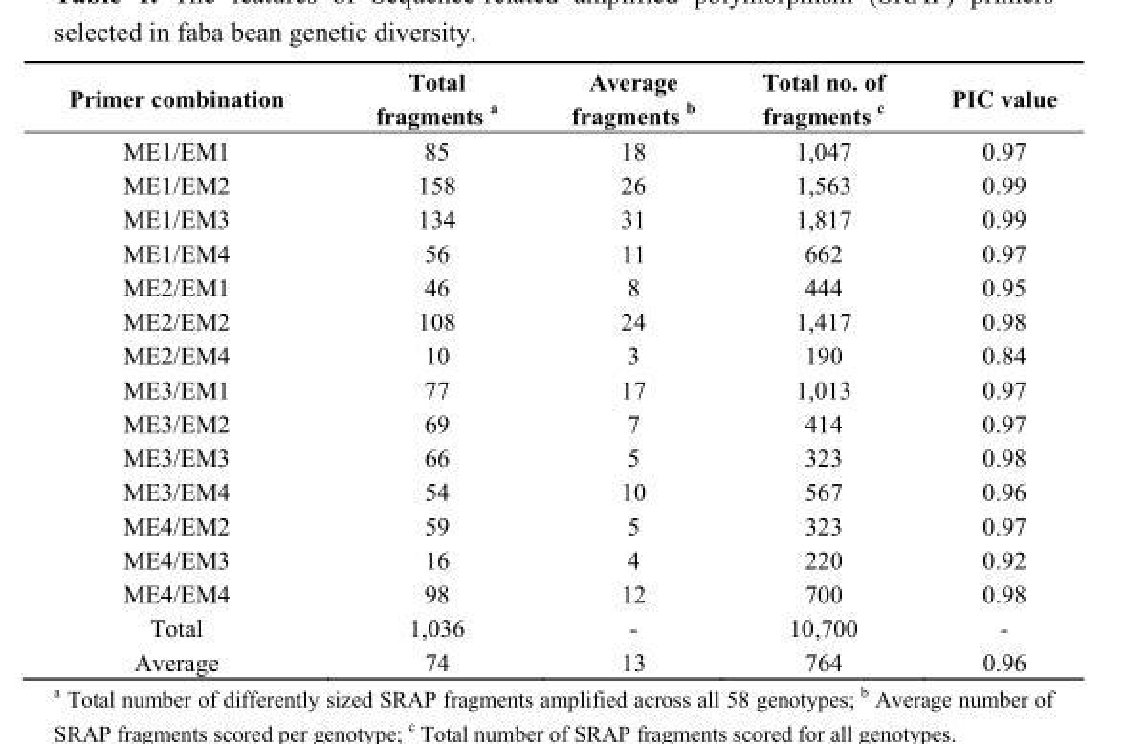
<table><thead><tr><td>Primer combination</td><td>Total fragments a</td><td>Average fragments b</td><td>Total no. of fragments c</td><td>PIC value</td></tr></thead><tbody><tr><td>ME1/EM1</td><td>85</td><td>18</td><td>1,047</td><td>0.97</td></tr><tr><td>ME1/EM2</td><td>158</td><td>26</td><td>1,563</td><td>0.99</td></tr><tr><td>ME1/EM3</td><td>134</td><td>31</td><td>1,817</td><td>0.99</td></tr><tr><td>ME1/EM4</td><td>56</td><td>11</td><td>662</td><td>0.97</td></tr><tr><td>ME2/EM1</td><td>46</td><td>8</td><td>444</td><td>0.95</td></tr><tr><td>ME2/EM2</td><td>108</td><td>24</td><td>1,417</td><td>0.98</td></tr><tr><td>ME2/EM4</td><td>10</td><td>3</td><td>190</td><td>0.84</td></tr><tr><td>ME3/EM1</td><td>77</td><td>17</td><td>1,013</td><td>0.97</td></tr><tr><td>ME3/EM2</td><td>69</td><td>7</td><td>414</td><td>0.97</td></tr><tr><td>ME3/EM3</td><td>66</td><td>5</td><td>323</td><td>0.98</td></tr><tr><td>ME3/EM4</td><td>54</td><td>10</td><td>567</td><td>0.96</td></tr><tr><td>ME4/EM2</td><td>59</td><td>5</td><td>323</td><td>0.97</td></tr><tr><td>ME4/EM3</td><td>16</td><td>4</td><td>220</td><td>0.92</td></tr><tr><td>ME4/EM4</td><td>98</td><td>12</td><td>700</td><td>0.98</td></tr><tr><td>Total</td><td>1,036</td><td>-</td><td>10,700</td><td>-</td></tr><tr><td>Average</td><td>74</td><td>13</td><td>764</td><td>0.96</td></tr></tbody></table>